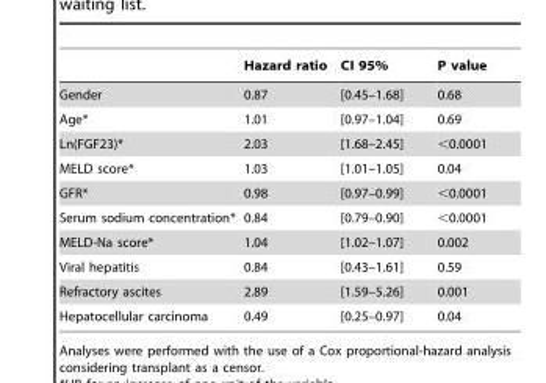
<table><thead><tr><td></td><td>Hazard ratio</td><td>CI 95%</td><td>P value</td></tr></thead><tbody><tr><td>Gender</td><td>0.87</td><td>[0.45–1.68]</td><td>0.68</td></tr><tr><td>Age*</td><td>1.01</td><td>[0.97–1.04]</td><td>0.69</td></tr><tr><td>Ln(FGF23)*</td><td>2.03</td><td>[1.68–2.45]</td><td>&lt;0.0001</td></tr><tr><td>MELD score*</td><td>1.03</td><td>[1.01–1.05]</td><td>0.04</td></tr><tr><td>GFR*</td><td>0.98</td><td>[0.97–0.99]</td><td>&lt;0.0001</td></tr><tr><td>Serum sodium concentration*</td><td>0.84</td><td>[0.79–0.90]</td><td>&lt;0.0001</td></tr><tr><td>MELD-Na score*</td><td>1.04</td><td>[1.02–1.07]</td><td>0.002</td></tr><tr><td>Viral hepatitis</td><td>0.84</td><td>[0.43–1.61]</td><td>0.59</td></tr><tr><td>Refractory ascites</td><td>2.89</td><td>[1.59–5.26]</td><td>0.001</td></tr><tr><td>Hepatocellular carcinoma</td><td>0.49</td><td>[0.25–0.97]</td><td>0.04</td></tr></tbody></table>